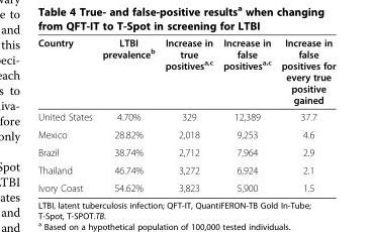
<table><thead><tr><td>Country</td><td>LTBI prevalence<sup>b</sup></td><td>Increase in true positives<sup>a,c</sup></td><td>Increase in false positives<sup>a,c</sup></td><td>Increase in false positives for every true positive gained</td></tr></thead><tbody><tr><td>United States</td><td>4.70%</td><td>329</td><td>12,389</td><td>37.7</td></tr><tr><td>Mexico</td><td>28.82%</td><td>2,018</td><td>9,253</td><td>4.6</td></tr><tr><td>Brazil</td><td>38.74%</td><td>2,712</td><td>7,964</td><td>2.9</td></tr><tr><td>Thailand</td><td>46.74%</td><td>3,272</td><td>6,924</td><td>2.1</td></tr><tr><td>Ivory Coast</td><td>54.62%</td><td>3,823</td><td>5,900</td><td>1.5</td></tr></tbody></table>